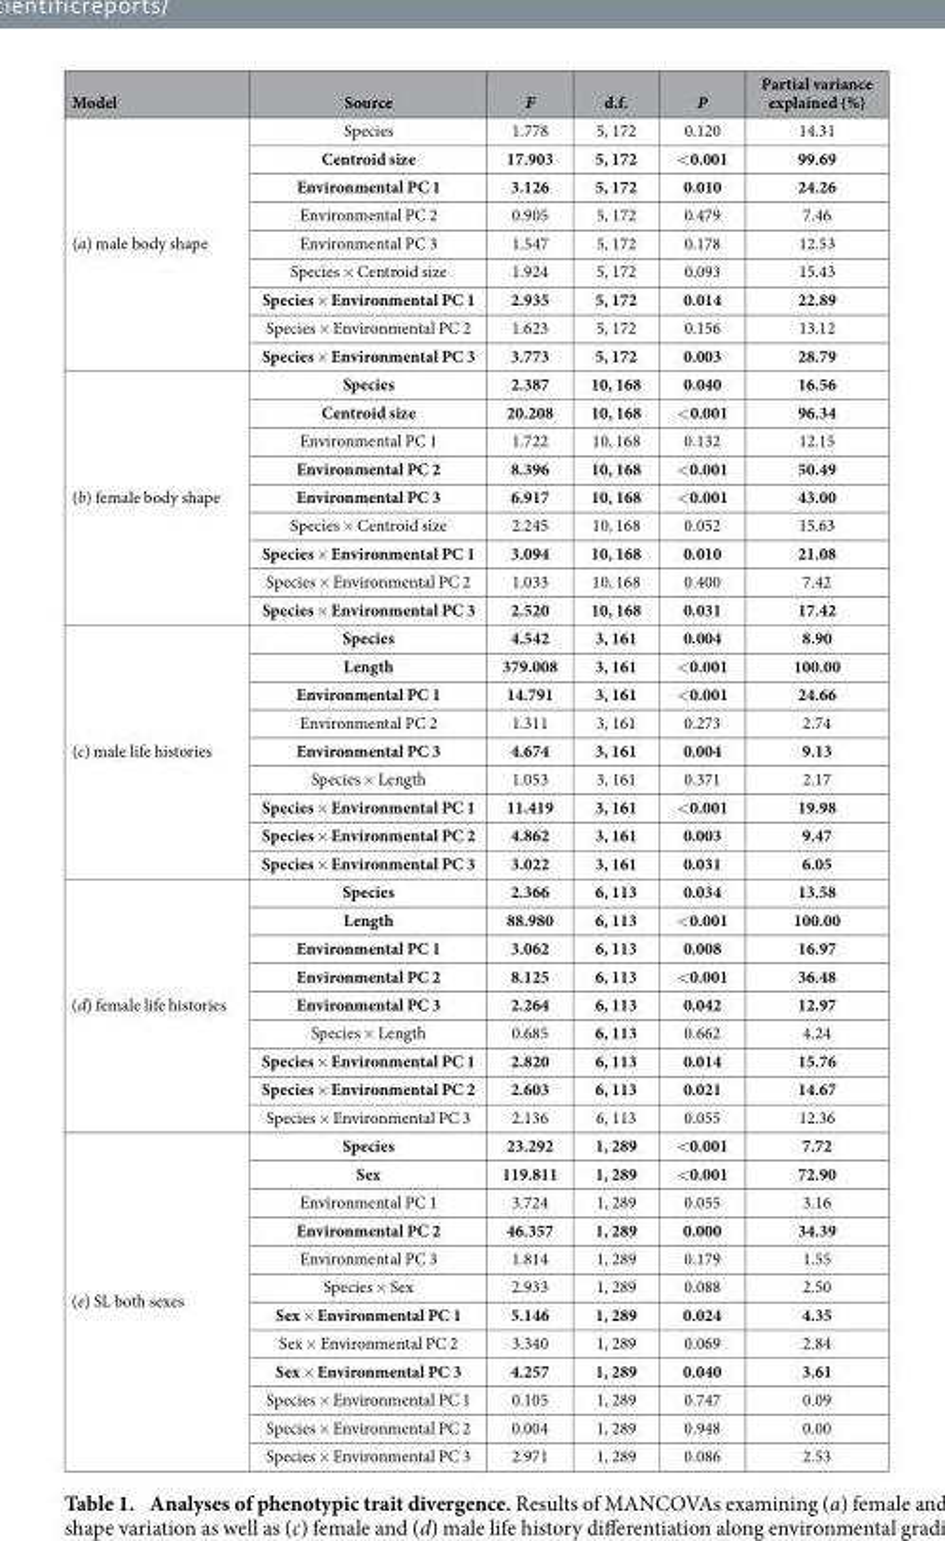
<table><thead><tr><td>Model</td><td>Source</td><td>F</td><td>d.f.</td><td>P</td><td>Partial variance explained (%)</td></tr></thead><tbody><tr><td rowspan="9">(a) male body shape</td><td>Species</td><td>1.778</td><td>5, 172</td><td>0.120</td><td>14.31</td></tr><tr><td>Centroid size</td><td>17.903</td><td>5, 172</td><td>&lt; 0.001</td><td>99.69</td></tr><tr><td>Environmental PC 1</td><td>3.126</td><td>5, 172</td><td>0.010</td><td>24.26</td></tr><tr><td>Environmental PC 2</td><td>0.905</td><td>5, 172</td><td>0.479</td><td>7.46</td></tr><tr><td>Environmental PC 3</td><td>1.547</td><td>5, 172</td><td>0.178</td><td>12.53</td></tr><tr><td>Species × Centroid size</td><td>1.924</td><td>5, 172</td><td>0.093</td><td>15.43</td></tr><tr><td>Species × Environmental PC 1</td><td>2.935</td><td>5, 172</td><td>0.014</td><td>22.89</td></tr><tr><td>Species × Environmental PC 2</td><td>1.623</td><td>5, 172</td><td>0.156</td><td>13.12</td></tr><tr><td>Species × Environmental PC 3</td><td>3.773</td><td>5, 172</td><td>0.003</td><td>28.79</td></tr><tr><td rowspan="9">(b) female body shape</td><td>Species</td><td>2.387</td><td>10, 168</td><td>0.040</td><td>16.56</td></tr><tr><td>Centroid size</td><td>20.208</td><td>10, 168</td><td>&lt; 0.001</td><td>96.34</td></tr><tr><td>Environmental PC 1</td><td>1.722</td><td>10, 168</td><td>0.132</td><td>12.15</td></tr><tr><td>Environmental PC 2</td><td>8.396</td><td>10, 168</td><td>&lt; 0.001</td><td>50.49</td></tr><tr><td>Environmental PC 3</td><td>6.917</td><td>10, 168</td><td>&lt; 0.001</td><td>43.00</td></tr><tr><td>Species × Centroid size</td><td>2.245</td><td>10, 168</td><td>0.052</td><td>15.63</td></tr><tr><td>Species × Environmental PC 1</td><td>3.094</td><td>10, 168</td><td>0.010</td><td>21.08</td></tr><tr><td>Species × Environmental PC 2</td><td>1.033</td><td>10, 168</td><td>0.400</td><td>7.42</td></tr><tr><td>Species × Environmental PC 3</td><td>2.520</td><td>10, 168</td><td>0.031</td><td>17.42</td></tr><tr><td rowspan="9">(c) male life histories</td><td>Species</td><td>4.542</td><td>3, 161</td><td>0.004</td><td>8.90</td></tr><tr><td>Length</td><td>379.008</td><td>3, 161</td><td>&lt; 0.001</td><td>100.00</td></tr><tr><td>Environmental PC 1</td><td>14.791</td><td>3, 161</td><td>&lt; 0.001</td><td>24.66</td></tr><tr><td>Environmental PC 2</td><td>1.311</td><td>3, 161</td><td>0.273</td><td>2.74</td></tr><tr><td>Environmental PC 3</td><td>4.674</td><td>3, 161</td><td>0.004</td><td>9.13</td></tr><tr><td>Species × Length</td><td>1.053</td><td>3, 161</td><td>0.371</td><td>2.17</td></tr><tr><td>Species × Environmental PC 1</td><td>11.419</td><td>3, 161</td><td>&lt; 0.001</td><td>19.98</td></tr><tr><td>Species × Environmental PC 2</td><td>4.862</td><td>3, 161</td><td>0.003</td><td>9.47</td></tr><tr><td>Species × Environmental PC 3</td><td>3.022</td><td>3, 161</td><td>0.031</td><td>6.05</td></tr><tr><td rowspan="9">(d) female life histories</td><td>Species</td><td>2.366</td><td>6, 113</td><td>0.034</td><td>13.58</td></tr><tr><td>Length</td><td>88.980</td><td>6, 113</td><td>&lt; 0.001</td><td>100.00</td></tr><tr><td>Environmental PC 1</td><td>3.062</td><td>6, 113</td><td>0.008</td><td>16.97</td></tr><tr><td>Environmental PC 2</td><td>8.125</td><td>6, 113</td><td>&lt; 0.001</td><td>36.48</td></tr><tr><td>Environmental PC 3</td><td>2.264</td><td>6, 113</td><td>0.042</td><td>12.97</td></tr><tr><td>Species × Length</td><td>0.685</td><td>6, 113</td><td>0.662</td><td>4.24</td></tr><tr><td>Species × Environmental PC 1</td><td>2.820</td><td>6, 113</td><td>0.014</td><td>15.76</td></tr><tr><td>Species × Environmental PC 2</td><td>2.603</td><td>6, 113</td><td>0.021</td><td>14.67</td></tr><tr><td>Species × Environmental PC 3</td><td>2.136</td><td>6, 113</td><td>0.055</td><td>12.36</td></tr><tr><td rowspan="12">(e) SL both sexes</td><td>Species</td><td>23.292</td><td>1, 289</td><td>&lt; 0.001</td><td>7.72</td></tr><tr><td>Sex</td><td>119.811</td><td>1, 289</td><td>&lt; 0.001</td><td>72.90</td></tr><tr><td>Environmental PC 1</td><td>3.724</td><td>1, 289</td><td>0.055</td><td>3.16</td></tr><tr><td>Environmental PC 2</td><td>46.357</td><td>1, 289</td><td>0.000</td><td>34.39</td></tr><tr><td>Environmental PC 3</td><td>1.814</td><td>1, 289</td><td>0.179</td><td>1.55</td></tr><tr><td>Species × Sex</td><td>2.933</td><td>1, 289</td><td>0.088</td><td>2.50</td></tr><tr><td>Sex × Environmental PC 1</td><td>5.146</td><td>1, 289</td><td>0.024</td><td>4.35</td></tr><tr><td>Sex × Environmental PC 2</td><td>3.340</td><td>1, 289</td><td>0.069</td><td>2.84</td></tr><tr><td>Sex × Environmental PC 3</td><td>4.257</td><td>1, 289</td><td>0.040</td><td>3.61</td></tr><tr><td>Species × Environmental PC 1</td><td>0.105</td><td>1, 289</td><td>0.747</td><td>0.09</td></tr><tr><td>Species × Environmental PC 2</td><td>0.004</td><td>1, 289</td><td>0.948</td><td>0.00</td></tr><tr><td>Species × Environmental PC 3</td><td>2.971</td><td>1, 289</td><td>0.086</td><td>2.53</td></tr></tbody></table>